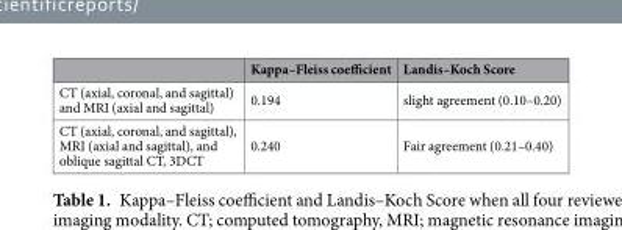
<table><thead><tr><td></td><td>Kappa–Fleiss coefficient</td><td>Landis–Koch Score</td></tr></thead><tbody><tr><td>CT (axial, coronal, and sagittal) and MRI (axial and sagittal)</td><td>0.194</td><td>slight agreement (0.10–0.20)</td></tr><tr><td>CT (axial, coronal, and sagittal), MRI (axial and sagittal), and oblique sagittal CT, 3DCT</td><td>0.240</td><td>Fair agreement (0.21–0.40)</td></tr></tbody></table>